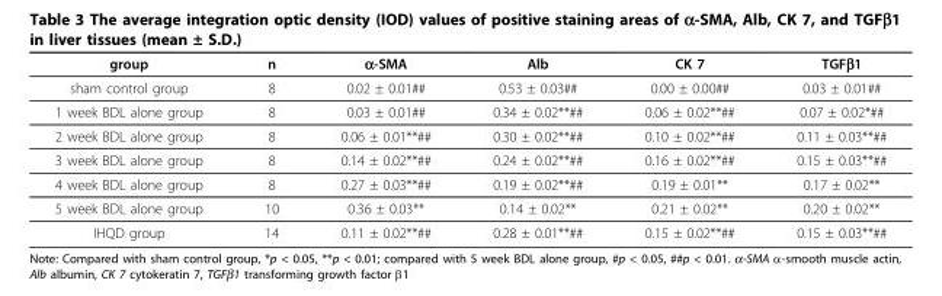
<table><thead><tr><td>group</td><td>n</td><td>α-SMA</td><td>Alb</td><td>CK 7</td><td>TGFβ1</td></tr></thead><tbody><tr><td>sham control group</td><td>8</td><td>0.02 ± 0.01##</td><td>0.53 ± 0.03##</td><td>0.00 ± 0.00##</td><td>0.03 ± 0.01##</td></tr><tr><td>1 week BDL alone group</td><td>8</td><td>0.03 ± 0.01##</td><td>0.34 ± 0.02**##</td><td>0.06 ± 0.02**##</td><td>0.07 ± 0.02*##</td></tr><tr><td>2 week BDL alone group</td><td>8</td><td>0.06 ± 0.01**##</td><td>0.30 ± 0.02**##</td><td>0.10 ± 0.02**##</td><td>0.11 ± 0.03**##</td></tr><tr><td>3 week BDL alone group</td><td>8</td><td>0.14 ± 0.02**##</td><td>0.24 ± 0.02**##</td><td>0.16 ± 0.02**##</td><td>0.15 ± 0.03**##</td></tr><tr><td>4 week BDL alone group</td><td>8</td><td>0.27 ± 0.03**##</td><td>0.19 ± 0.02**##</td><td>0.19 ± 0.01**</td><td>0.17 ± 0.02**</td></tr><tr><td>5 week BDL alone group</td><td>10</td><td>0.36 ± 0.03**</td><td>0.14 ± 0.02**</td><td>0.21 ± 0.02**</td><td>0.20 ± 0.02**</td></tr><tr><td>IHQD group</td><td>14</td><td>0.11 ± 0.02**##</td><td>0.28 ± 0.01**##</td><td>0.15 ± 0.02**##</td><td>0.15 ± 0.03**##</td></tr></tbody></table>